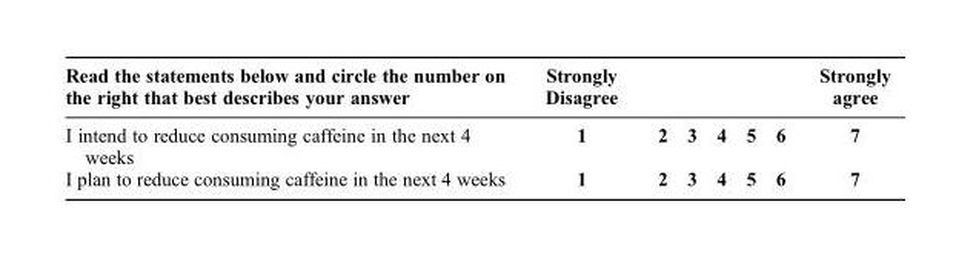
<table><thead><tr><td>Read the statements below and circle the number on the right that best describes your answer</td><td>Strongly Disagree</td><td></td><td></td><td></td><td></td><td></td><td>Strongly agree</td></tr></thead><tbody><tr><td>I intend to reduce consuming caffeine in the next 4 weeks</td><td>1</td><td>2</td><td>3</td><td>4</td><td>5</td><td>6</td><td>7</td></tr><tr><td>I plan to reduce consuming caffeine in the next 4 weeks</td><td>1</td><td>2</td><td>3</td><td>4</td><td>5</td><td>6</td><td>7</td></tr></tbody></table>